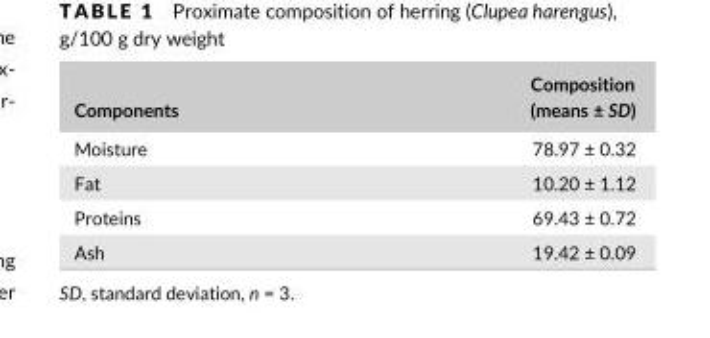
<table><thead><tr><td>Components</td><td>Composition (means ± SD)</td></tr></thead><tbody><tr><td>Moisture</td><td>78.97 ± 0.32</td></tr><tr><td>Fat</td><td>10.20 ± 1.12</td></tr><tr><td>Proteins</td><td>69.43 ± 0.72</td></tr><tr><td>Ash</td><td>19.42 ± 0.09</td></tr></tbody></table>